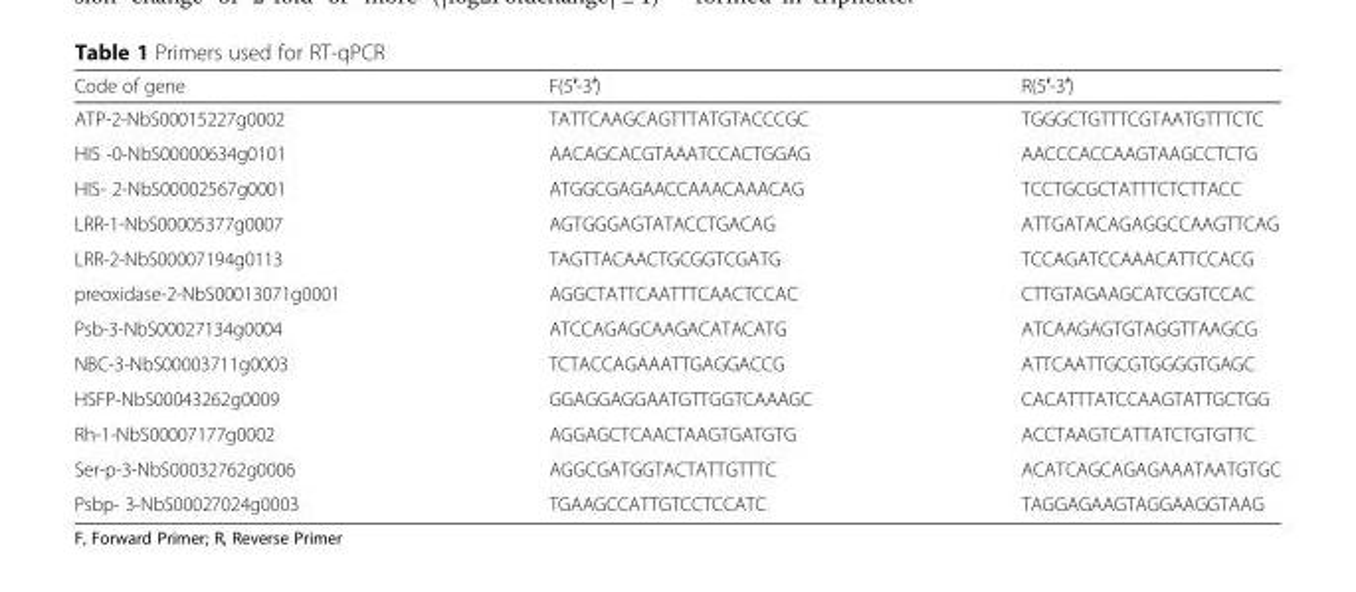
<table><thead><tr><td>Code of gene</td><td>F(5′-3′)</td><td>R(5′-3′)</td></tr></thead><tbody><tr><td>ATP-2-NbS00015227g0002</td><td>TATTCAAGCAGTTTATGTACCCGC</td><td>TGGGCTGTTTCGTAATGTTTCTC</td></tr><tr><td>HIS -0-NbS00000634g0101</td><td>AACAGCACGTAAATCCACTGGAG</td><td>AACCCACCAAGTAAGCCTCTG</td></tr><tr><td>HIS- 2-NbS00002567g0001</td><td>ATGGCGAGAACCAAACAAACAG</td><td>TCCTGCGCTATTTCTCTTACC</td></tr><tr><td>LRR-1-NbS00005377g0007</td><td>AGTGGGAGTATACCTGACAG</td><td>ATTGATACAGAGGCCAAGTTCAG</td></tr><tr><td>LRR-2-NbS00007194g0113</td><td>TAGTTACAACTGCGGTCGATG</td><td>TCCAGATCCAAACATTCCACG</td></tr><tr><td>preoxidase-2-NbS00013071g0001</td><td>AGGCTATTCAATTTCAACTCCAC</td><td>CTTGTAGAAGCATCGGTCCAC</td></tr><tr><td>Psb-3-NbS00027134g0004</td><td>ATCCAGAGCAAGACATACATG</td><td>ATCAAGAGTGTAGGTTAAGCG</td></tr><tr><td>NBC-3-NbS00003711g0003</td><td>TCTACCAGAAATTGAGGACCG</td><td>ATTCAATTGCGTGGGGTGAGC</td></tr><tr><td>HSFP-NbS00043262g0009</td><td>GGAGGAGGAATGTTGGTCAAAGC</td><td>CACATTTATCCAAGTATTGCTGG</td></tr><tr><td>Rh-1-NbS00007177g0002</td><td>AGGAGCTCAACTAAGTGATGTG</td><td>ACCTAAGTCATTATCTGTGTTC</td></tr><tr><td>Ser-p-3-NbS00032762g0006</td><td>AGGCGATGGTACTATTGTTTC</td><td>ACATCAGCAGAGAAATAATGTGC</td></tr><tr><td>Psbp- 3-NbS00027024g0003</td><td>TGAAGCCATTGTCCTCCATC</td><td>TAGGAGAAGTAGGAAGGTAAG</td></tr></tbody></table>